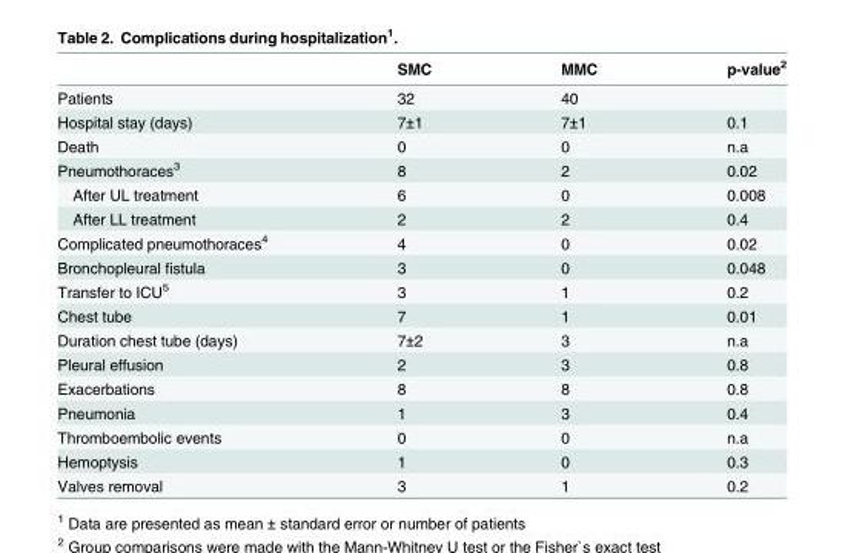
<table><thead><tr><td></td><td>SMC</td><td>MMC</td><td>p-value<sup>2</sup></td></tr></thead><tbody><tr><td>Patients</td><td>32</td><td>40</td><td></td></tr><tr><td>Hospital stay (days)</td><td>7±1</td><td>7±1</td><td>0.1</td></tr><tr><td>Death</td><td>0</td><td>0</td><td>n.a</td></tr><tr><td>Pneumothoraces<sup>3</sup></td><td>8</td><td>2</td><td>0.02</td></tr><tr><td>After UL treatment</td><td>6</td><td>0</td><td>0.008</td></tr><tr><td>After LL treatment</td><td>2</td><td>2</td><td>0.4</td></tr><tr><td>Complicated pneumothoraces<sup>4</sup></td><td>4</td><td>0</td><td>0.02</td></tr><tr><td>Bronchopleural fistula</td><td>3</td><td>0</td><td>0.048</td></tr><tr><td>Transfer to ICU<sup>5</sup></td><td>3</td><td>1</td><td>0.2</td></tr><tr><td>Chest tube</td><td>7</td><td>1</td><td>0.01</td></tr><tr><td>Duration chest tube (days)</td><td>7±2</td><td>3</td><td>n.a</td></tr><tr><td>Pleural effusion</td><td>2</td><td>3</td><td>0.8</td></tr><tr><td>Exacerbations</td><td>8</td><td>8</td><td>0.8</td></tr><tr><td>Pneumonia</td><td>1</td><td>3</td><td>0.4</td></tr><tr><td>Thromboembolic events</td><td>0</td><td>0</td><td>n.a</td></tr><tr><td>Hemoptysis</td><td>1</td><td>0</td><td>0.3</td></tr><tr><td>Valves removal</td><td>3</td><td>1</td><td>0.2</td></tr></tbody></table>